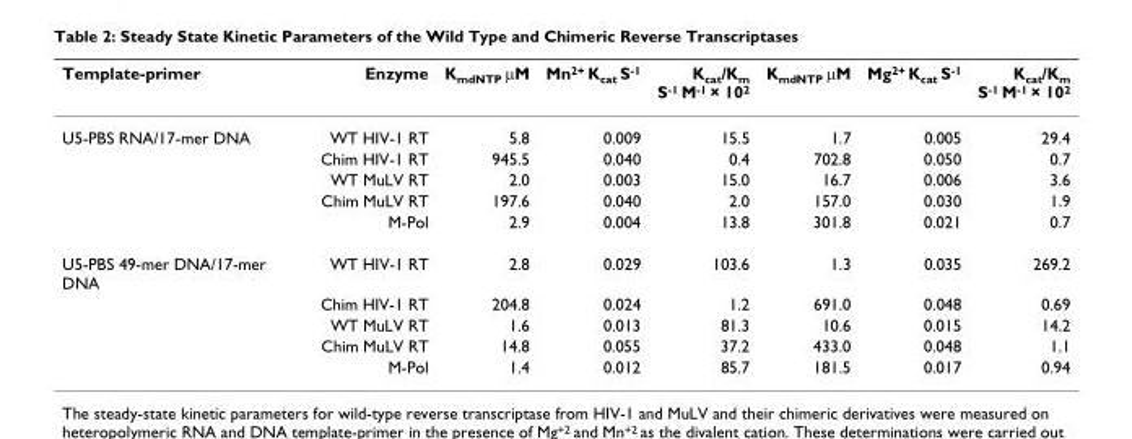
<table><thead><tr><td>Template-primer</td><td>Enzyme</td><td>K<sub>mdNTP</sub> μM</td><td>Mn<sup>2+</sup> K<sub>cat</sub> S<sup>-1</sup></td><td>K<sub>cat</sub>/K<sub>m</sub> S<sup>-1</sup> M<sup>-1</sup> × 10<sup>2</sup></td><td>K<sub>mdNTP</sub> μM</td><td>Mg<sup>2+</sup> K<sub>cat</sub> S<sup>-1</sup></td><td>K<sub>cat</sub>/K<sub>m</sub> S<sup>-1</sup> M<sup>-1</sup> × 10<sup>2</sup></td></tr></thead><tbody><tr><td rowspan="5">U5-PBS RNA/17-mer DNA</td><td>WT HIV-1 RT</td><td>5.8</td><td>0.009</td><td>15.5</td><td>1.7</td><td>0.005</td><td>29.4</td></tr><tr><td>Chim HIV-1 RT</td><td>945.5</td><td>0.040</td><td>0.4</td><td>702.8</td><td>0.050</td><td>0.7</td></tr><tr><td>WT MuLV RT</td><td>2.0</td><td>0.003</td><td>15.0</td><td>16.7</td><td>0.006</td><td>3.6</td></tr><tr><td>Chim MuLV RT</td><td>197.6</td><td>0.040</td><td>2.0</td><td>157.0</td><td>0.030</td><td>1.9</td></tr><tr><td>M-Pol</td><td>2.9</td><td>0.004</td><td>13.8</td><td>301.8</td><td>0.021</td><td>0.7</td></tr><tr><td rowspan="5">U5-PBS 49-mer DNA/17-mer DNA</td><td>WT HIV-1 RT</td><td>2.8</td><td>0.029</td><td>103.6</td><td>1.3</td><td>0.035</td><td>269.2</td></tr><tr><td>Chim HIV-1 RT</td><td>204.8</td><td>0.024</td><td>1.2</td><td>691.0</td><td>0.048</td><td>0.69</td></tr><tr><td>WT MuLV RT</td><td>1.6</td><td>0.013</td><td>81.3</td><td>10.6</td><td>0.015</td><td>14.2</td></tr><tr><td>Chim MuLV RT</td><td>14.8</td><td>0.055</td><td>37.2</td><td>433.0</td><td>0.048</td><td>1.1</td></tr><tr><td>M-Pol</td><td>1.4</td><td>0.012</td><td>85.7</td><td>181.5</td><td>0.017</td><td>0.94</td></tr></tbody></table>